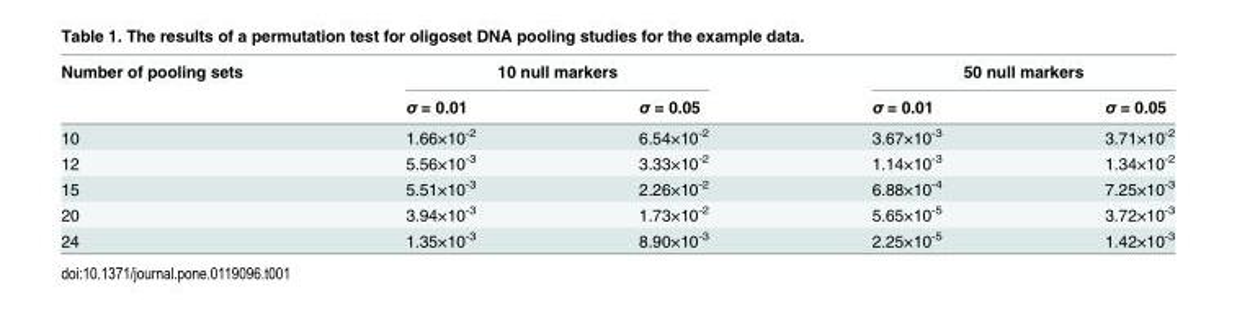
<table><thead><tr><td rowspan="2">Number of pooling sets</td><td colspan="2">10 null markers</td><td colspan="2">50 null markers</td></tr><tr><td>σ = 0.01</td><td>σ = 0.05</td><td>σ = 0.01</td><td>σ = 0.05</td></tr></thead><tbody><tr><td>10</td><td>1.66×10<sup>-2</sup></td><td>6.54×10<sup>-2</sup></td><td>3.67×10<sup>-3</sup></td><td>3.71×10<sup>-2</sup></td></tr><tr><td>12</td><td>5.56×10<sup>-3</sup></td><td>3.33×10<sup>-2</sup></td><td>1.14×10<sup>-3</sup></td><td>1.34×10<sup>-2</sup></td></tr><tr><td>15</td><td>5.51×10<sup>-3</sup></td><td>2.26×10<sup>-2</sup></td><td>6.88×10<sup>-4</sup></td><td>7.25×10<sup>-3</sup></td></tr><tr><td>20</td><td>3.94×10<sup>-3</sup></td><td>1.73×10<sup>-2</sup></td><td>5.65×10<sup>-5</sup></td><td>3.72×10<sup>-3</sup></td></tr><tr><td>24</td><td>1.35×10<sup>-3</sup></td><td>8.90×10<sup>-3</sup></td><td>2.25×10<sup>-5</sup></td><td>1.42×10<sup>-3</sup></td></tr></tbody></table>